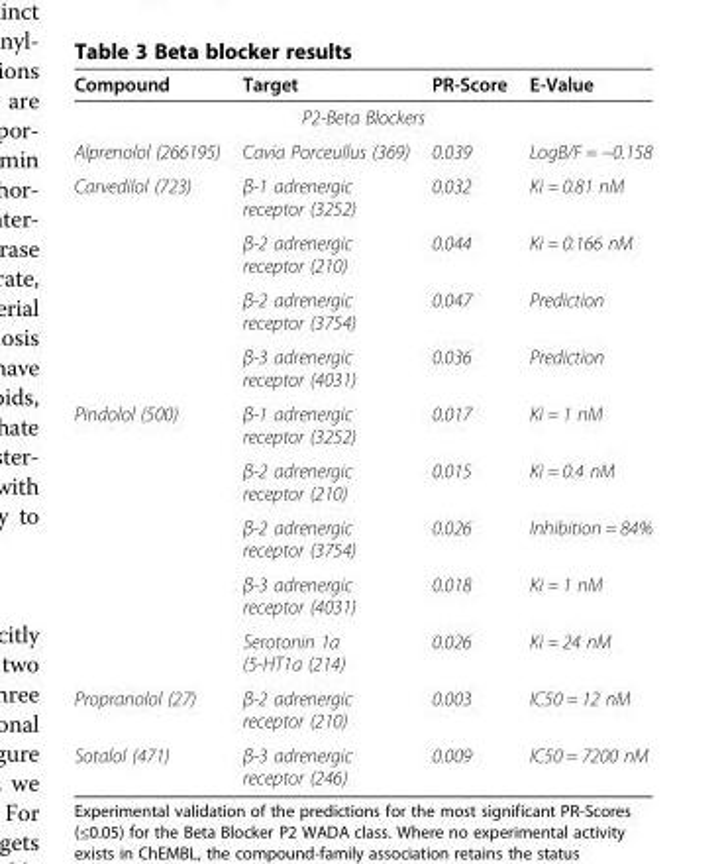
<table><thead><tr><td>Compound</td><td>Target</td><td>PR-Score</td><td>E-Value</td></tr></thead><tbody><tr><td colspan="4">P2-Beta Blockers</td></tr><tr><td>Alprenolol (266195)</td><td>Cavia Porceullus (369)</td><td>0.039</td><td>LogB/F = −0.158</td></tr><tr><td rowspan="4">Carvedilol (723)</td><td>β-1 adrenergic receptor (3252)</td><td>0.032</td><td>Ki = 0.81 nM</td></tr><tr><td>β-2 adrenergic receptor (210)</td><td>0.044</td><td>Ki = 0.166 nM</td></tr><tr><td>β-2 adrenergic receptor (3754)</td><td>0.047</td><td>Prediction</td></tr><tr><td>β-3 adrenergic receptor (4031)</td><td>0.036</td><td>Prediction</td></tr><tr><td rowspan="5">Pindolol (500)</td><td>β-1 adrenergic receptor (3252)</td><td>0.017</td><td>Ki = 1 nM</td></tr><tr><td>β-2 adrenergic receptor (210)</td><td>0.015</td><td>Ki = 0.4 nM</td></tr><tr><td>β-2 adrenergic receptor (3754)</td><td>0.026</td><td>Inhibition = 84%</td></tr><tr><td>β-3 adrenergic receptor (4031)</td><td>0.018</td><td>Ki = 1 nM</td></tr><tr><td>Serotonin 1a (5-HT1a (214)</td><td>0.026</td><td>Ki = 24 nM</td></tr><tr><td>Propranolol (27)</td><td>β-2 adrenergic receptor (210)</td><td>0.003</td><td>IC50 = 12 nM</td></tr><tr><td>Sotalol (471)</td><td>β-3 adrenergic receptor (246)</td><td>0.009</td><td>IC50 = 7200 nM</td></tr></tbody></table>